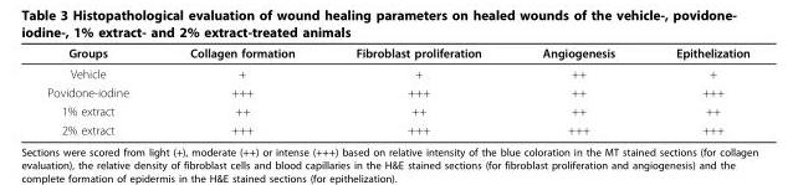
<table><thead><tr><td>Groups</td><td>Collagen formation</td><td>Fibroblast proliferation</td><td>Angiogenesis</td><td>Epithelization</td></tr></thead><tbody><tr><td>Vehicle</td><td>+</td><td>+</td><td>++</td><td>+</td></tr><tr><td>Povidone-iodine</td><td>+++</td><td>+++</td><td>++</td><td>+++</td></tr><tr><td>1% extract</td><td>++</td><td>++</td><td>++</td><td>++</td></tr><tr><td>2% extract</td><td>+++</td><td>+++</td><td>+++</td><td>+++</td></tr></tbody></table>